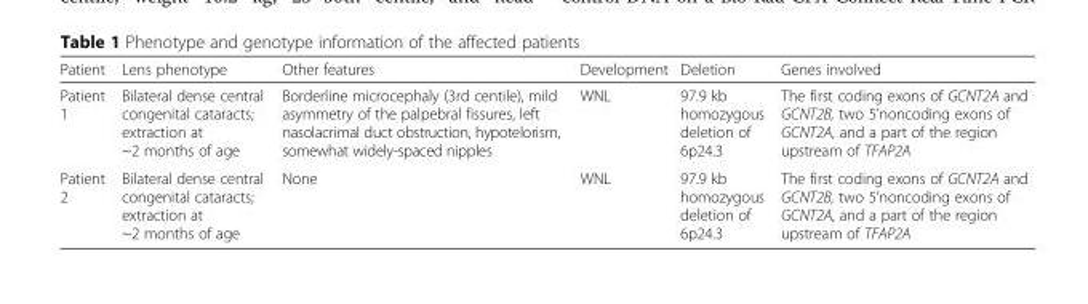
<table><thead><tr><td>Patient</td><td>Lens phenotype</td><td>Other features</td><td>Development</td><td>Deletion</td><td>Genes involved</td></tr></thead><tbody><tr><td>Patient 1</td><td>Bilateral dense central congenital cataracts; extraction at ~2 months of age</td><td>Borderline microcephaly (3rd centile), mild asymmetry of the palpebral fissures, left nasolacrimal duct obstruction, hypotelorism, somewhat widely-spaced nipples</td><td>WNL</td><td>97.9 kb homozygous deletion of 6p24.3</td><td>The first coding exons of GCNT2A and GCNT2B, two 5’noncoding exons of GCNT2A, and a part of the region upstream of TFAP2A</td></tr><tr><td>Patient 2</td><td>Bilateral dense central congenital cataracts; extraction at ~2 months of age</td><td>None</td><td>WNL</td><td>97.9 kb homozygous deletion of 6p24.3</td><td>The first coding exons of GCNT2A and GCNT2B, two 5’noncoding exons of GCNT2A, and a part of the region upstream of TFAP2A</td></tr></tbody></table>